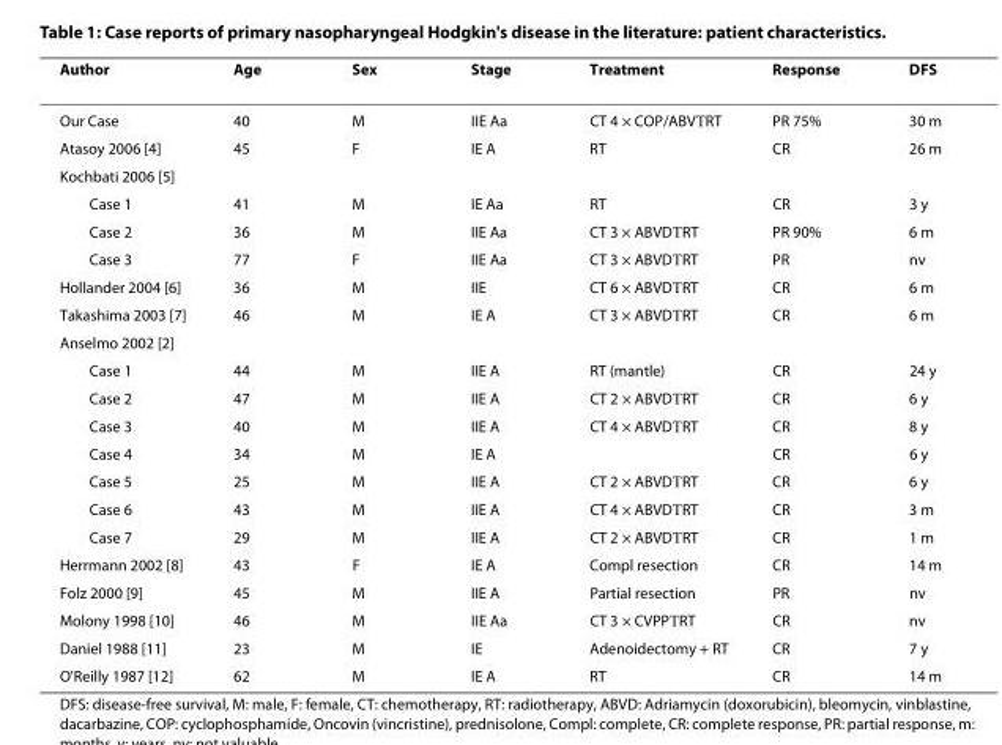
<table><thead><tr><td>Author</td><td>Age</td><td>Sex</td><td>Stage</td><td>Treatment</td><td>Response</td><td>DFS</td></tr></thead><tbody><tr><td>Our Case</td><td>40</td><td>M</td><td>IIE Aa</td><td>CT 4 × COP/ABV→RT</td><td>PR 75%</td><td>30 m</td></tr><tr><td>Atasoy 2006 [4]</td><td>45</td><td>F</td><td>IE A</td><td>RT</td><td>CR</td><td>26 m</td></tr><tr><td colspan="7">Kochbati 2006 [5]</td></tr><tr><td>Case 1</td><td>41</td><td>M</td><td>IE Aa</td><td>RT</td><td>CR</td><td>3 y</td></tr><tr><td>Case 2</td><td>36</td><td>M</td><td>IIE Aa</td><td>CT 3 × ABVD→RT</td><td>PR 90%</td><td>6 m</td></tr><tr><td>Case 3</td><td>77</td><td>F</td><td>IIE Aa</td><td>CT 3 × ABVD→RT</td><td>PR</td><td>nv</td></tr><tr><td>Hollander 2004 [6]</td><td>36</td><td>M</td><td>IIE</td><td>CT 6 × ABVD→RT</td><td>CR</td><td>6 m</td></tr><tr><td>Takashima 2003 [7]</td><td>46</td><td>M</td><td>IE A</td><td>CT 3 × ABVD→RT</td><td>CR</td><td>6 m</td></tr><tr><td colspan="7">Anselmo 2002 [2]</td></tr><tr><td>Case 1</td><td>44</td><td>M</td><td>IIE A</td><td>RT (mantle)</td><td>CR</td><td>24 y</td></tr><tr><td>Case 2</td><td>47</td><td>M</td><td>IIE A</td><td>CT 2 × ABVD→RT</td><td>CR</td><td>6 y</td></tr><tr><td>Case 3</td><td>40</td><td>M</td><td>IIE A</td><td>CT 4 × ABVD→RT</td><td>CR</td><td>8 y</td></tr><tr><td>Case 4</td><td>34</td><td>M</td><td>IE A</td><td></td><td>CR</td><td>6 y</td></tr><tr><td>Case 5</td><td>25</td><td>M</td><td>IIE A</td><td>CT 2 × ABVD→RT</td><td>CR</td><td>6 y</td></tr><tr><td>Case 6</td><td>43</td><td>M</td><td>IIE A</td><td>CT 4 × ABVD→RT</td><td>CR</td><td>3 m</td></tr><tr><td>Case 7</td><td>29</td><td>M</td><td>IIE A</td><td>CT 2 × ABVD→RT</td><td>CR</td><td>1 m</td></tr><tr><td>Herrmann 2002 [8]</td><td>43</td><td>F</td><td>IE A</td><td>Compl resection</td><td>CR</td><td>14 m</td></tr><tr><td>Folz 2000 [9]</td><td>45</td><td>M</td><td>IIE A</td><td>Partial resection</td><td>PR</td><td>nv</td></tr><tr><td>Molony 1998 [10]</td><td>46</td><td>M</td><td>IIE Aa</td><td>CT 3 × CVPP→RT</td><td>CR</td><td>nv</td></tr><tr><td>Daniel 1988 [11]</td><td>23</td><td>M</td><td>IE</td><td>Adenoidectomy + RT</td><td>CR</td><td>7 y</td></tr><tr><td>O&#x27;Reilly 1987 [12]</td><td>62</td><td>M</td><td>IE A</td><td>RT</td><td>CR</td><td>14 m</td></tr></tbody></table>